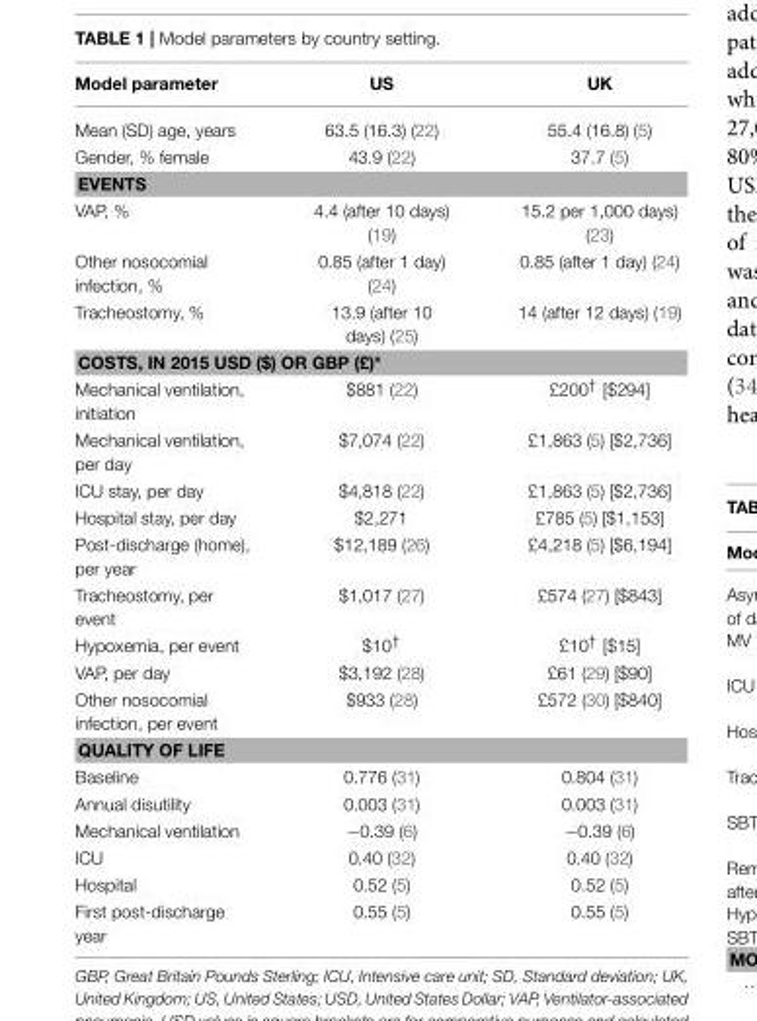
<table><thead><tr><td>Model parameter</td><td>US</td><td>UK</td></tr></thead><tbody><tr><td>Mean (SD) age, years</td><td>63.5 (16.3) (22)</td><td>55.4 (16.8) (5)</td></tr><tr><td>Gender, % female</td><td>43.9 (22)</td><td>37.7 (5)</td></tr><tr><td colspan="3">EVENTS</td></tr><tr><td>VAP, %</td><td>4.4 (after 10 days) (19)</td><td>15.2 per 1,000 days) (23)</td></tr><tr><td>Other nosocomial infection, %</td><td>0.85 (after 1 day) (24)</td><td>0.85 (after 1 day) (24)</td></tr><tr><td>Tracheostomy, %</td><td>13.9 (after 10 days) (25)</td><td>14 (after 12 days) (19)</td></tr><tr><td colspan="3">COSTS, IN 2015 USD ($) OR GBP (£)*</td></tr><tr><td>Mechanical ventilation, initiation</td><td>$881 (22)</td><td>£200<sup>†</sup> [$294]</td></tr><tr><td>Mechanical ventilation, per day</td><td>$7,074 (22)</td><td>£1,863 (5) [$2,736]</td></tr><tr><td>ICU stay, per day</td><td>$4,818 (22)</td><td>£1,863 (5) [$2,736]</td></tr><tr><td>Hospital stay, per day</td><td>$2,271</td><td>£785 (5) [$1,153]</td></tr><tr><td>Post-discharge (home), per year</td><td>$12,189 (26)</td><td>£4,218 (5) [$6,194]</td></tr><tr><td>Tracheostomy, per event</td><td>$1,017 (27)</td><td>£574 (27) [$843]</td></tr><tr><td>Hypoxemia, per event</td><td>$10<sup>†</sup></td><td>£10<sup>†</sup> [$15]</td></tr><tr><td>VAP, per day</td><td>$3,192 (28)</td><td>£61 (29) [$90]</td></tr><tr><td>Other nosocomial infection, per event</td><td>$933 (28)</td><td>£572 (30) [$840]</td></tr><tr><td colspan="3">QUALITY OF LIFE</td></tr><tr><td>Baseline</td><td>0.776 (31)</td><td>0.804 (31)</td></tr><tr><td>Annual disutility</td><td>0.003 (31)</td><td>0.003 (31)</td></tr><tr><td>Mechanical ventilation</td><td>−0.39 (6)</td><td>−0.39 (6)</td></tr><tr><td>ICU</td><td>0.40 (32)</td><td>0.40 (32)</td></tr><tr><td>Hospital</td><td>0.52 (5)</td><td>0.52 (5)</td></tr><tr><td>First post-discharge year</td><td>0.55 (5)</td><td>0.55 (5)</td></tr></tbody></table>